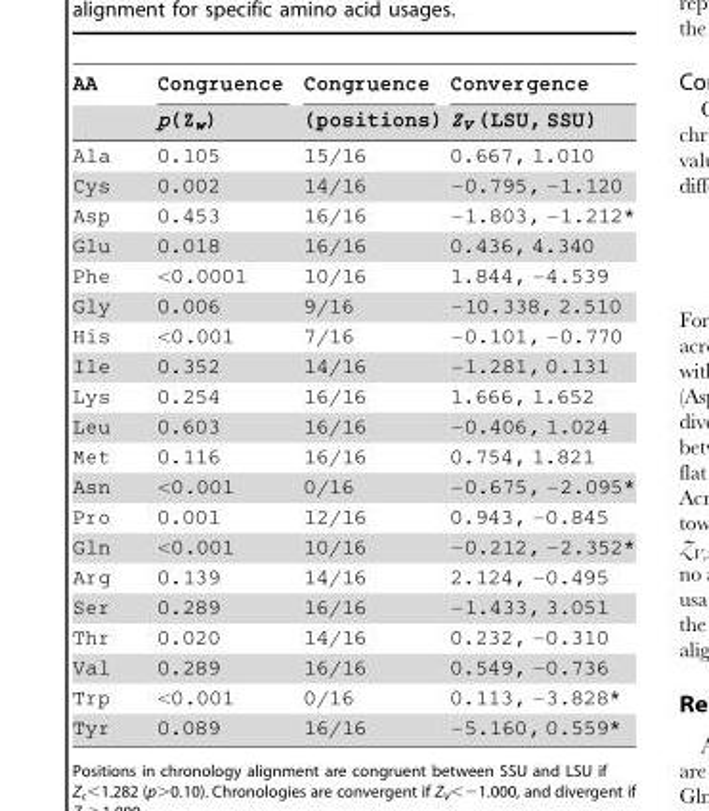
<table><thead><tr><td rowspan="2">AA</td><td rowspan="2">Congruence p(Z<sub>w</sub>)</td><td rowspan="2">Congruence (positions)</td><td rowspan="2">Convergence Z<sub>V</sub> (LSU, SSU)</td></tr><tr></tr></thead><tbody><tr><td>Ala</td><td>0.105</td><td>15/16</td><td>0.667, 1.010</td></tr><tr><td>Cys</td><td>0.002</td><td>14/16</td><td>−0.795, −1.120</td></tr><tr><td>Asp</td><td>0.453</td><td>16/16</td><td>−1.803, −1.212*</td></tr><tr><td>Glu</td><td>0.018</td><td>16/16</td><td>0.436, 4.340</td></tr><tr><td>Phe</td><td>&lt;0.0001</td><td>10/16</td><td>1.844, −4.539</td></tr><tr><td>Gly</td><td>0.006</td><td>9/16</td><td>−10.338, 2.510</td></tr><tr><td>His</td><td>&lt;0.001</td><td>7/16</td><td>−0.101, −0.770</td></tr><tr><td>Ile</td><td>0.352</td><td>14/16</td><td>−1.281, 0.131</td></tr><tr><td>Lys</td><td>0.254</td><td>16/16</td><td>1.666, 1.652</td></tr><tr><td>Leu</td><td>0.603</td><td>16/16</td><td>−0.406, 1.024</td></tr><tr><td>Met</td><td>0.116</td><td>16/16</td><td>0.754, 1.821</td></tr><tr><td>Asn</td><td>&lt;0.001</td><td>0/16</td><td>−0.675, −2.095*</td></tr><tr><td>Pro</td><td>0.001</td><td>12/16</td><td>0.943, −0.845</td></tr><tr><td>Gln</td><td>&lt;0.001</td><td>10/16</td><td>−0.212, −2.352*</td></tr><tr><td>Arg</td><td>0.139</td><td>14/16</td><td>2.124, −0.495</td></tr><tr><td>Ser</td><td>0.289</td><td>16/16</td><td>−1.433, 3.051</td></tr><tr><td>Thr</td><td>0.020</td><td>14/16</td><td>0.232, −0.310</td></tr><tr><td>Val</td><td>0.289</td><td>16/16</td><td>0.549, −0.736</td></tr><tr><td>Trp</td><td>&lt;0.001</td><td>0/16</td><td>0.113, −3.828*</td></tr><tr><td>Tyr</td><td>0.089</td><td>16/16</td><td>−5.160, 0.559*</td></tr></tbody></table>